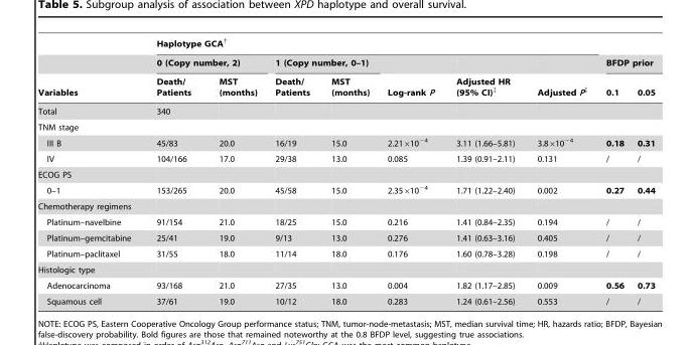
<table><thead><tr><td rowspan="3">Variables</td><td colspan="7">Haplotype GCA†</td><td></td><td></td></tr><tr><td colspan="2">0 (Copy number, 2)</td><td colspan="2">1 (Copy number, 0–1)</td><td rowspan="2">Log-rank P</td><td rowspan="2">Adjusted HR (95% CI)‡</td><td rowspan="2">Adjusted P‡</td><td colspan="2">BFDP prior</td></tr><tr><td>Death/ Patients</td><td>MST (months)</td><td>Death/ Patients</td><td>MST (months)</td><td>0.1</td><td>0.05</td></tr></thead><tbody><tr><td>Total</td><td>340</td><td></td><td></td><td></td><td></td><td></td><td></td><td></td><td></td></tr><tr><td colspan="10">TNM stage</td></tr><tr><td>III B</td><td>45/83</td><td>20.0</td><td>16/19</td><td>15.0</td><td>2.21×10<sup>−4</sup></td><td>3.11 (1.66–5.81)</td><td>3.8×10<sup>−4</sup></td><td>0.18</td><td>0.31</td></tr><tr><td>IV</td><td>104/166</td><td>17.0</td><td>29/38</td><td>13.0</td><td>0.085</td><td>1.39 (0.91–2.11)</td><td>0.131</td><td>/</td><td>/</td></tr><tr><td colspan="10">ECOG PS</td></tr><tr><td>0–1</td><td>153/265</td><td>20.0</td><td>45/58</td><td>15.0</td><td>2.35×10<sup>−4</sup></td><td>1.71 (1.22–2.40)</td><td>0.002</td><td>0.27</td><td>0.44</td></tr><tr><td colspan="10">Chemotherapy regimens</td></tr><tr><td>Platinum–navelbine</td><td>91/154</td><td>21.0</td><td>18/25</td><td>15.0</td><td>0.216</td><td>1.41 (0.84–2.35)</td><td>0.194</td><td>/</td><td>/</td></tr><tr><td>Platinum–gemcitabine</td><td>25/41</td><td>19.0</td><td>9/13</td><td>13.0</td><td>0.276</td><td>1.41 (0.63–3.16)</td><td>0.405</td><td>/</td><td>/</td></tr><tr><td>Platinum–paclitaxel</td><td>31/55</td><td>18.0</td><td>11/14</td><td>18.0</td><td>0.176</td><td>1.60 (0.78–3.28)</td><td>0.198</td><td>/</td><td>/</td></tr><tr><td colspan="10">Histologic type</td></tr><tr><td>Adenocarcinoma</td><td>93/168</td><td>21.0</td><td>27/35</td><td>13.0</td><td>0.004</td><td>1.82 (1.17–2.85)</td><td>0.009</td><td>0.56</td><td>0.73</td></tr><tr><td>Squamous cell</td><td>37/61</td><td>19.0</td><td>10/12</td><td>18.0</td><td>0.283</td><td>1.24 (0.61–2.56)</td><td>0.553</td><td>/</td><td>/</td></tr></tbody></table>